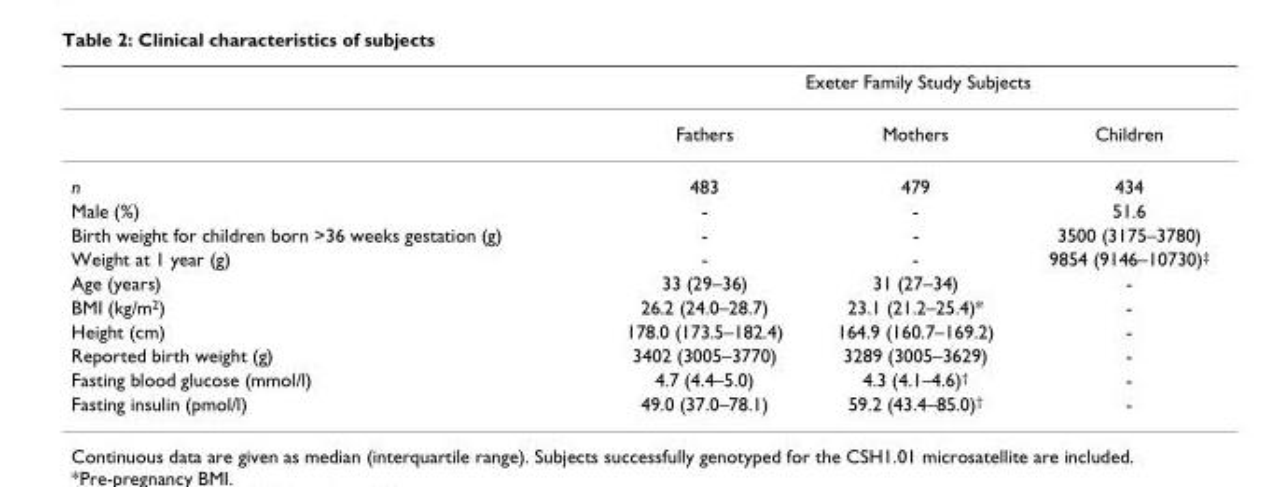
<table><thead><tr><td rowspan="2"></td><td colspan="3">Exeter Family Study Subjects</td></tr><tr><td>Fathers</td><td>Mothers</td><td>Children</td></tr></thead><tbody><tr><td>n</td><td>483</td><td>479</td><td>434</td></tr><tr><td>Male (%)</td><td>-</td><td>-</td><td>51.6</td></tr><tr><td>Birth weight for children born &gt;36 weeks gestation (g)</td><td>-</td><td>-</td><td>3500 (3175–3780)</td></tr><tr><td>Weight at 1 year (g)</td><td>-</td><td>-</td><td>9854 (9146–10730)<sup>‡</sup></td></tr><tr><td>Age (years)</td><td>33 (29–36)</td><td>31 (27–34)</td><td>-</td></tr><tr><td>BMI (kg/m<sup>2</sup>)</td><td>26.2 (24.0–28.7)</td><td>23.1 (21.2–25.4)*</td><td>-</td></tr><tr><td>Height (cm)</td><td>178.0 (173.5–182.4)</td><td>164.9 (160.7–169.2)</td><td>-</td></tr><tr><td>Reported birth weight (g)</td><td>3402 (3005–3770)</td><td>3289 (3005–3629)</td><td>-</td></tr><tr><td>Fasting blood glucose (mmol/l)</td><td>4.7 (4.4–5.0)</td><td>4.3 (4.1–4.6)<sup>†</sup></td><td>-</td></tr><tr><td>Fasting insulin (pmol/l)</td><td>49.0 (37.0–78.1)</td><td>59.2 (43.4–85.0)<sup>†</sup></td><td>-</td></tr></tbody></table>